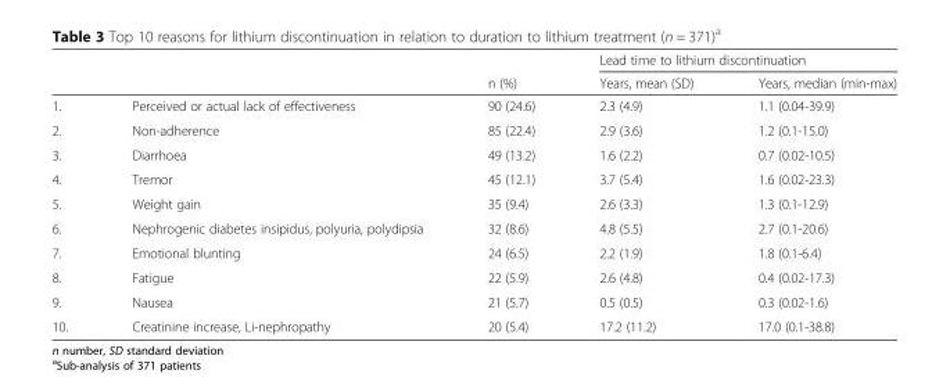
<table><thead><tr><td rowspan="2"></td><td rowspan="2"></td><td rowspan="2">n (%)</td><td colspan="2">Lead time to lithium discontinuation</td></tr><tr><td>Years, mean (SD)</td><td>Years, median (min-max)</td></tr></thead><tbody><tr><td>1.</td><td>Perceived or actual lack of effectiveness</td><td>90 (24.6)</td><td>2.3 (4.9)</td><td>1.1 (0.04-39.9)</td></tr><tr><td>2.</td><td>Non-adherence</td><td>85 (22.4)</td><td>2.9 (3.6)</td><td>1.2 (0.1-15.0)</td></tr><tr><td>3.</td><td>Diarrhoea</td><td>49 (13.2)</td><td>1.6 (2.2)</td><td>0.7 (0.02-10.5)</td></tr><tr><td>4.</td><td>Tremor</td><td>45 (12.1)</td><td>3.7 (5.4)</td><td>1.6 (0.02-23.3)</td></tr><tr><td>5.</td><td>Weight gain</td><td>35 (9.4)</td><td>2.6 (3.3)</td><td>1.3 (0.1-12.9)</td></tr><tr><td>6.</td><td>Nephrogenic diabetes insipidus, polyuria, polydipsia</td><td>32 (8.6)</td><td>4.8 (5.5)</td><td>2.7 (0.1-20.6)</td></tr><tr><td>7.</td><td>Emotional blunting</td><td>24 (6.5)</td><td>2.2 (1.9)</td><td>1.8 (0.1-6.4)</td></tr><tr><td>8.</td><td>Fatigue</td><td>22 (5.9)</td><td>2.6 (4.8)</td><td>0.4 (0.02-17.3)</td></tr><tr><td>9.</td><td>Nausea</td><td>21 (5.7)</td><td>0.5 (0.5)</td><td>0.3 (0.02-1.6)</td></tr><tr><td>10.</td><td>Creatinine increase, Li-nephropathy</td><td>20 (5.4)</td><td>17.2 (11.2)</td><td>17.0 (0.1-38.8)</td></tr></tbody></table>